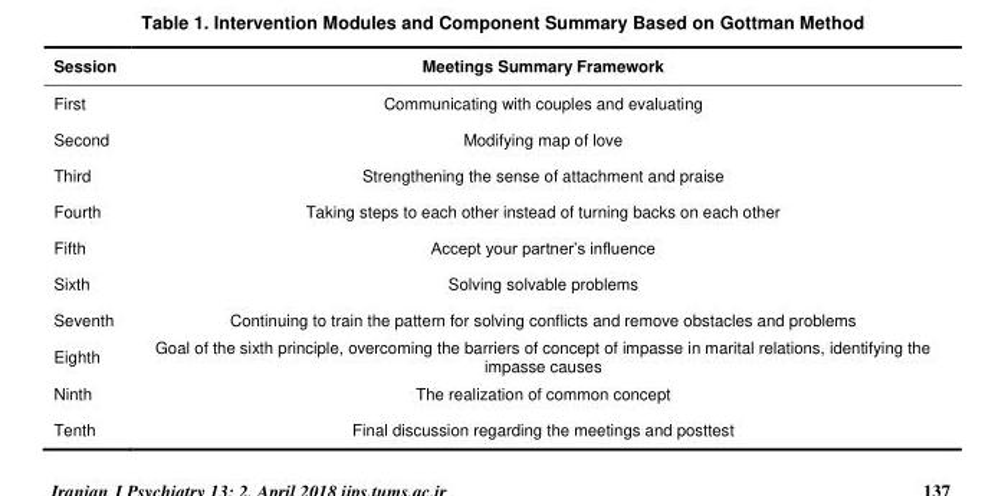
<table><thead><tr><td>Session</td><td>Meetings Summary Framework</td></tr></thead><tbody><tr><td>First</td><td>Communicating with couples and evaluating</td></tr><tr><td>Second</td><td>Modifying map of love</td></tr><tr><td>Third</td><td>Strengthening the sense of attachment and praise</td></tr><tr><td>Fourth</td><td>Taking steps to each other instead of turning backs on each other</td></tr><tr><td>Fifth</td><td>Accept your partner’s influence</td></tr><tr><td>Sixth</td><td>Solving solvable problems</td></tr><tr><td>Seventh</td><td>Continuing to train the pattern for solving conflicts and remove obstacles and problems</td></tr><tr><td>Eighth</td><td>Goal of the sixth principle, overcoming the barriers of concept of impasse in marital relations, identifying the impasse causes</td></tr><tr><td>Ninth</td><td>The realization of common concept</td></tr><tr><td>Tenth</td><td>Final discussion regarding the meetings and posttest</td></tr></tbody></table>